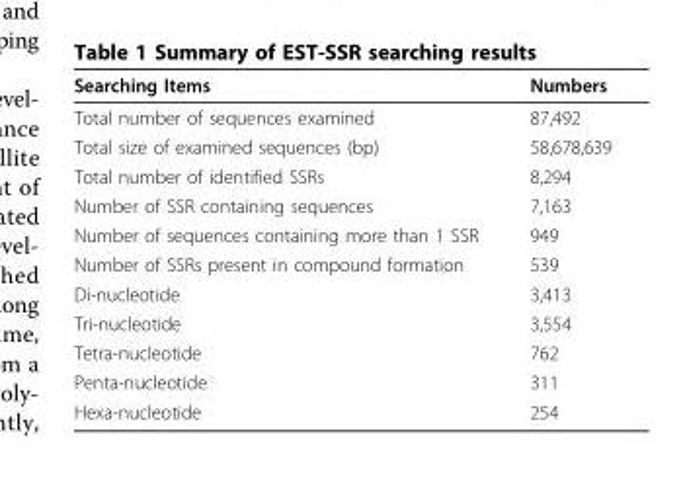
<table><thead><tr><td>Searching Items</td><td>Numbers</td></tr></thead><tbody><tr><td>Total number of sequences examined</td><td>87,492</td></tr><tr><td>Total size of examined sequences (bp)</td><td>58,678,639</td></tr><tr><td>Total number of identified SSRs</td><td>8,294</td></tr><tr><td>Number of SSR containing sequences</td><td>7,163</td></tr><tr><td>Number of sequences containing more than 1 SSR</td><td>949</td></tr><tr><td>Number of SSRs present in compound formation</td><td>539</td></tr><tr><td>Di-nucleotide</td><td>3,413</td></tr><tr><td>Tri-nucleotide</td><td>3,554</td></tr><tr><td>Tetra-nucleotide</td><td>762</td></tr><tr><td>Penta-nucleotide</td><td>311</td></tr><tr><td>Hexa-nucleotide</td><td>254</td></tr></tbody></table>